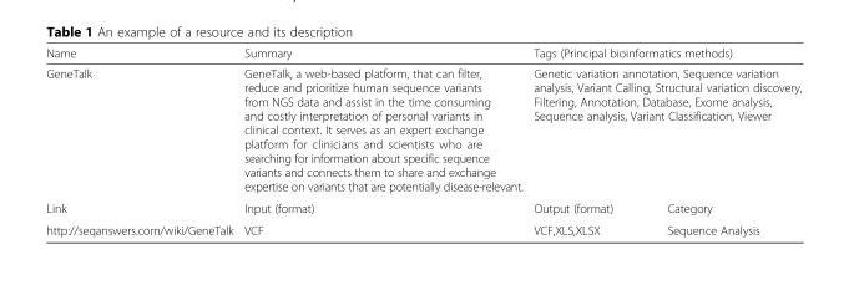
<table><thead><tr><td rowspan="3">Name GeneTalk Link</td><td rowspan="3">Summary GeneTalk, a web-based platform, that can filter, reduce and prioritize human sequence variants from NGS data and assist in the time consuming and costly interpretation of personal variants in clinical context. It serves as an expert exchange platform for clinicians and scientists who are searching for information about specific sequence variants and connects them to share and exchange expertise on variants that are potentially disease-relevant. Input (format)</td><td rowspan="2" colspan="2">Tags (Principal bioinformatics methods) Genetic variation annotation, Sequence variation analysis, Variant Calling, Structural variation discovery, Filtering, Annotation, Database, Exome analysis, Sequence analysis, Variant Classification, Viewer</td></tr><tr></tr><tr><td>Output (format)</td><td>Category</td></tr></thead><tbody><tr><td>http://seqanswers.com/wiki/GeneTalk</td><td>VCF</td><td>VCF,XLS,XLSX</td><td>Sequence Analysis</td></tr></tbody></table>